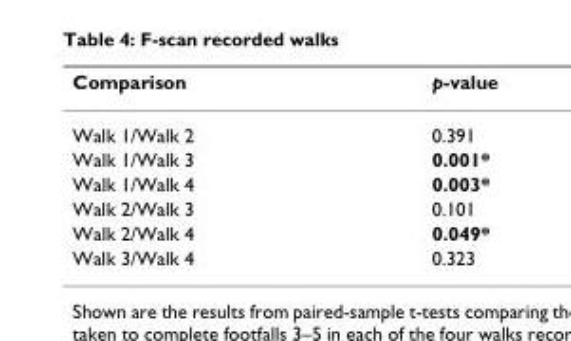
<table><thead><tr><td>Comparison</td><td>p-value</td></tr></thead><tbody><tr><td>Walk 1/Walk 2</td><td>0.391</td></tr><tr><td>Walk 1/Walk 3</td><td>0.001*</td></tr><tr><td>Walk 1/Walk 4</td><td>0.003*</td></tr><tr><td>Walk 2/Walk 3</td><td>0.101</td></tr><tr><td>Walk 2/Walk 4</td><td>0.049*</td></tr><tr><td>Walk 3/Walk 4</td><td>0.323</td></tr></tbody></table>